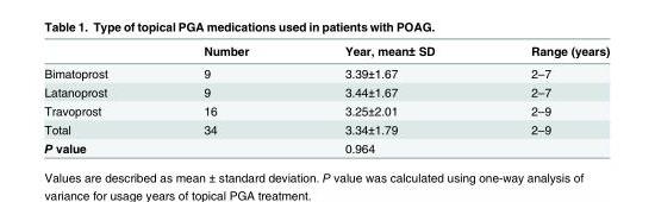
<table><thead><tr><td></td><td>Number</td><td>Year, mean± SD</td><td>Range (years)</td></tr></thead><tbody><tr><td>Bimatoprost</td><td>9</td><td>3.39±1.67</td><td>2–7</td></tr><tr><td>Latanoprost</td><td>9</td><td>3.44±1.67</td><td>2–7</td></tr><tr><td>Travoprost</td><td>16</td><td>3.25±2.01</td><td>2–9</td></tr><tr><td>Total</td><td>34</td><td>3.34±1.79</td><td>2–9</td></tr><tr><td>P value</td><td></td><td>0.964</td><td></td></tr></tbody></table>